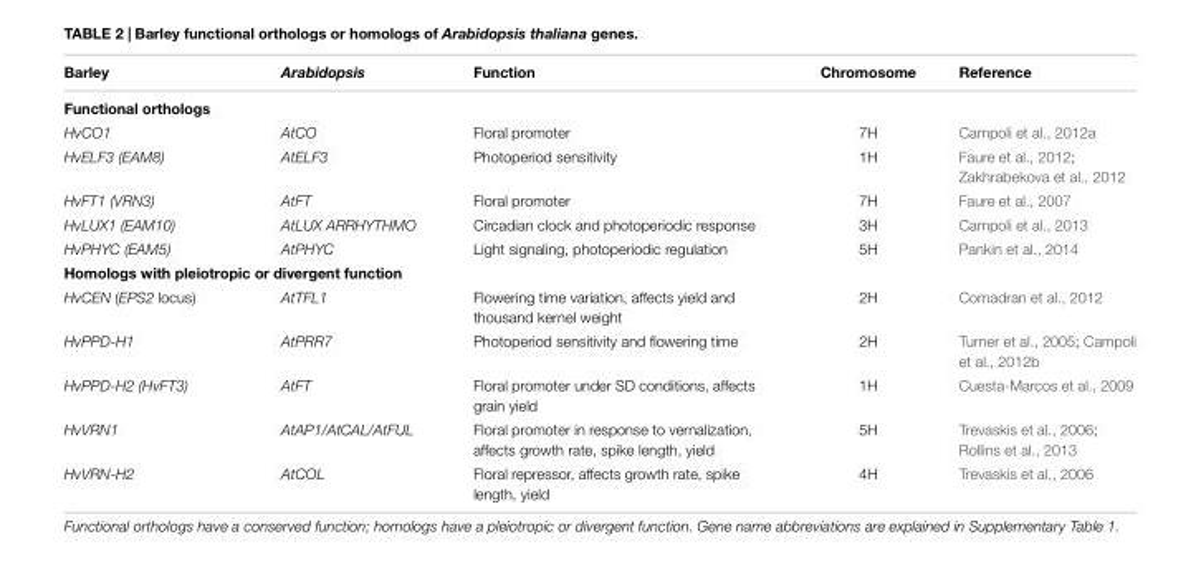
<table><thead><tr><td>Barley</td><td>Arabidopsis</td><td>Function</td><td>Chromosome</td><td>Reference</td></tr></thead><tbody><tr><td colspan="5">Functional orthologs</td></tr><tr><td>HvCO1</td><td>AtCO</td><td>Floral promoter</td><td>7H</td><td>Campoli et al., 2012a</td></tr><tr><td>HvELF3 (EAM8)</td><td>AtELF3</td><td>Photoperiod sensitivity</td><td>1H</td><td>Faure et al., 2012; Zakhrabekova et al., 2012</td></tr><tr><td>HvFT1 (VRN3)</td><td>AtFT</td><td>Floral promoter</td><td>7H</td><td>Faure et al., 2007</td></tr><tr><td>HvLUX1 (EAM10)</td><td>AtLUX ARRHYTHMO</td><td>Circadian clock and photoperiodic response</td><td>3H</td><td>Campoli et al., 2013</td></tr><tr><td>HvPHYC (EAM5)</td><td>AtPHYC</td><td>Light signaling, photoperiodic regulation</td><td>5H</td><td>Pankin et al., 2014</td></tr><tr><td colspan="5">Homologs with pleiotropic or divergent function</td></tr><tr><td>HvCEN (EPS2 locus)</td><td>AtTFL1</td><td>Flowering time variation, affects yield and thousand kernel weight</td><td>2H</td><td>Comadran et al., 2012</td></tr><tr><td>HvPPD-H1</td><td>AtPRR7</td><td>Photoperiod sensitivity and flowering time</td><td>2H</td><td>Turner et al., 2005; Campoli et al., 2012b</td></tr><tr><td>HvPPD-H2 (HvFT3)</td><td>AtFT</td><td>Floral promoter under SD conditions, affects grain yield</td><td>1H</td><td>Cuesta-Marcos et al., 2009</td></tr><tr><td>HvVRN1</td><td>AtAP1/AtCAL/AtFUL</td><td>Floral promoter in response to vernalization, affects growth rate, spike length, yield</td><td>5H</td><td>Trevaskis et al., 2006; Rollins et al., 2013</td></tr><tr><td>HvVRN-H2</td><td>AtCOL</td><td>Floral repressor, affects growth rate, spike length, yield</td><td>4H</td><td>Trevaskis et al., 2006</td></tr></tbody></table>